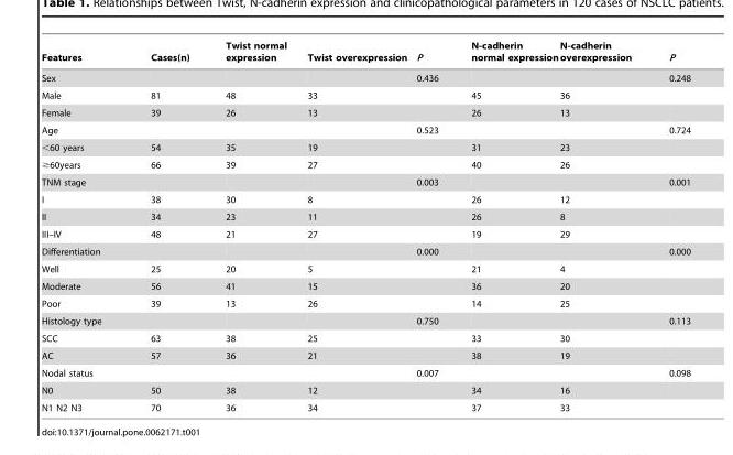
<table><thead><tr><td>Features</td><td>Cases(n)</td><td>Twist normal expression</td><td>Twist overexpression</td><td>P</td><td>N-cadherin normal expression</td><td>N-cadherin overexpression</td><td>P</td></tr></thead><tbody><tr><td>Sex</td><td></td><td></td><td></td><td>0.436</td><td></td><td></td><td>0.248</td></tr><tr><td>Male</td><td>81</td><td>48</td><td>33</td><td></td><td>45</td><td>36</td><td></td></tr><tr><td>Female</td><td>39</td><td>26</td><td>13</td><td></td><td>26</td><td>13</td><td></td></tr><tr><td>Age</td><td></td><td></td><td></td><td>0.523</td><td></td><td></td><td>0.724</td></tr><tr><td>&lt;60 years</td><td>54</td><td>35</td><td>19</td><td></td><td>31</td><td>23</td><td></td></tr><tr><td>≥60years</td><td>66</td><td>39</td><td>27</td><td></td><td>40</td><td>26</td><td></td></tr><tr><td>TNM stage</td><td></td><td></td><td></td><td>0.003</td><td></td><td></td><td>0.001</td></tr><tr><td>I</td><td>38</td><td>30</td><td>8</td><td></td><td>26</td><td>12</td><td></td></tr><tr><td>II</td><td>34</td><td>23</td><td>11</td><td></td><td>26</td><td>8</td><td></td></tr><tr><td>III–IV</td><td>48</td><td>21</td><td>27</td><td></td><td>19</td><td>29</td><td></td></tr><tr><td>Differentiation</td><td></td><td></td><td></td><td>0.000</td><td></td><td></td><td>0.000</td></tr><tr><td>Well</td><td>25</td><td>20</td><td>5</td><td></td><td>21</td><td>4</td><td></td></tr><tr><td>Moderate</td><td>56</td><td>41</td><td>15</td><td></td><td>36</td><td>20</td><td></td></tr><tr><td>Poor</td><td>39</td><td>13</td><td>26</td><td></td><td>14</td><td>25</td><td></td></tr><tr><td>Histology type</td><td></td><td></td><td></td><td>0.750</td><td></td><td></td><td>0.113</td></tr><tr><td>SCC</td><td>63</td><td>38</td><td>25</td><td></td><td>33</td><td>30</td><td></td></tr><tr><td>AC</td><td>57</td><td>36</td><td>21</td><td></td><td>38</td><td>19</td><td></td></tr><tr><td>Nodal status</td><td></td><td></td><td></td><td>0.007</td><td></td><td></td><td>0.098</td></tr><tr><td>N0</td><td>50</td><td>38</td><td>12</td><td></td><td>34</td><td>16</td><td></td></tr><tr><td>N1 N2 N3</td><td>70</td><td>36</td><td>34</td><td></td><td>37</td><td>33</td><td></td></tr></tbody></table>